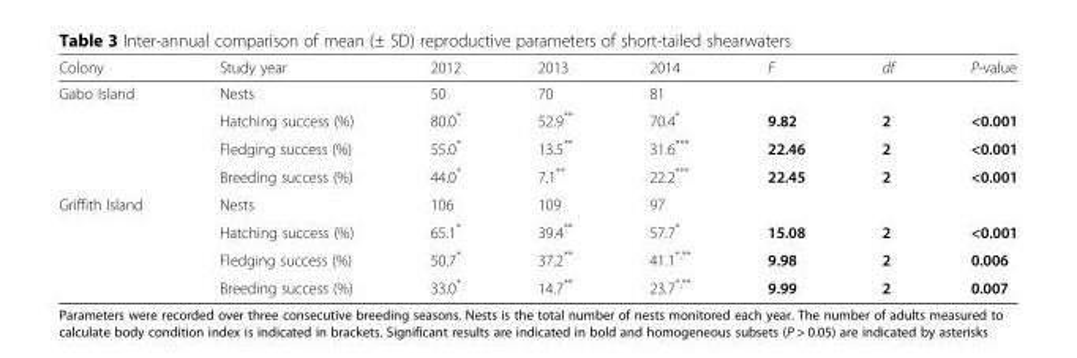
<table><thead><tr><td>Colony</td><td>Study year</td><td>2012</td><td>2013</td><td>2014</td><td>F</td><td>df</td><td>P-value</td></tr></thead><tbody><tr><td rowspan="4">Gabo Island</td><td>Nests</td><td>50</td><td>70</td><td>81</td><td></td><td></td><td></td></tr><tr><td>Hatching success (%)</td><td>80.0*</td><td>52.9**</td><td>70.4*</td><td>9.82</td><td>2</td><td>&lt;0.001</td></tr><tr><td>Fledging success (%)</td><td>55.0*</td><td>13.5**</td><td>31.6***</td><td>22.46</td><td>2</td><td>&lt;0.001</td></tr><tr><td>Breeding success (%)</td><td>44.0*</td><td>7.1**</td><td>22.2***</td><td>22.45</td><td>2</td><td>&lt;0.001</td></tr><tr><td rowspan="4">Griffith Island</td><td>Nests</td><td>106</td><td>109</td><td>97</td><td></td><td></td><td></td></tr><tr><td>Hatching success (%)</td><td>65.1*</td><td>39.4**</td><td>57.7*</td><td>15.08</td><td>2</td><td>&lt;0.001</td></tr><tr><td>Fledging success (%)</td><td>50.7*</td><td>37.2**</td><td>41.1<sup>*,**</sup></td><td>9.98</td><td>2</td><td>0.006</td></tr><tr><td>Breeding success (%)</td><td>33.0*</td><td>14.7**</td><td>23.7<sup>*,**</sup></td><td>9.99</td><td>2</td><td>0.007</td></tr></tbody></table>